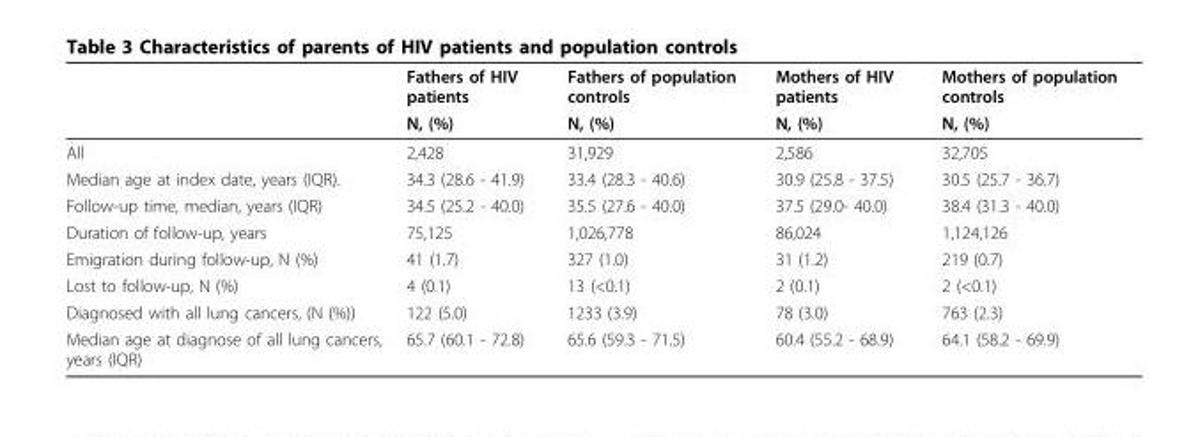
<table><thead><tr><td rowspan="2"></td><td rowspan="2">Fathers of HIV patients N, (%)</td><td rowspan="2">Fathers of population controls N, (%)</td><td rowspan="2">Mothers of HIV patients N, (%)</td><td rowspan="2">Mothers of population controls N, (%)</td></tr><tr></tr></thead><tbody><tr><td>All</td><td>2,428</td><td>31,929</td><td>2,586</td><td>32,705</td></tr><tr><td>Median age at index date, years (IQR).</td><td>34.3 (28.6 - 41.9)</td><td>33.4 (28.3 - 40.6)</td><td>30.9 (25.8 - 37.5)</td><td>30.5 (25.7 - 36.7)</td></tr><tr><td>Follow-up time, median, years (IQR)</td><td>34.5 (25.2 - 40.0)</td><td>35.5 (27.6 - 40.0)</td><td>37.5 (29.0- 40.0)</td><td>38.4 (31.3 - 40.0)</td></tr><tr><td>Duration of follow-up, years</td><td>75,125</td><td>1,026,778</td><td>86,024</td><td>1,124,126</td></tr><tr><td>Emigration during follow-up, N (%)</td><td>41 (1.7)</td><td>327 (1.0)</td><td>31 (1.2)</td><td>219 (0.7)</td></tr><tr><td>Lost to follow-up, N (%)</td><td>4 (0.1)</td><td>13 (&lt;0.1)</td><td>2 (0.1)</td><td>2 (&lt;0.1)</td></tr><tr><td>Diagnosed with all lung cancers, (N (%))</td><td>122 (5.0)</td><td>1233 (3.9)</td><td>78 (3.0)</td><td>763 (2.3)</td></tr><tr><td>Median age at diagnose of all lung cancers, years (IQR)</td><td>65.7 (60.1 - 72.8)</td><td>65.6 (59.3 - 71.5)</td><td>60.4 (55.2 - 68.9)</td><td>64.1 (58.2 - 69.9)</td></tr></tbody></table>